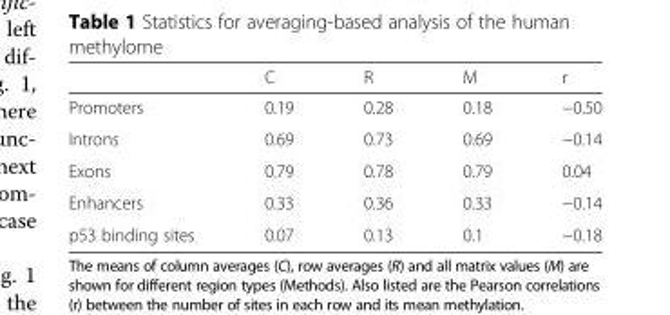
<table><thead><tr><td></td><td>C</td><td>R</td><td>M</td><td>r</td></tr></thead><tbody><tr><td>Promoters</td><td>0.19</td><td>0.28</td><td>0.18</td><td>−0.50</td></tr><tr><td>Introns</td><td>0.69</td><td>0.73</td><td>0.69</td><td>−0.14</td></tr><tr><td>Exons</td><td>0.79</td><td>0.78</td><td>0.79</td><td>0.04</td></tr><tr><td>Enhancers</td><td>0.33</td><td>0.36</td><td>0.33</td><td>−0.14</td></tr><tr><td>p53 binding sites</td><td>0.07</td><td>0.13</td><td>0.1</td><td>−0.18</td></tr></tbody></table>